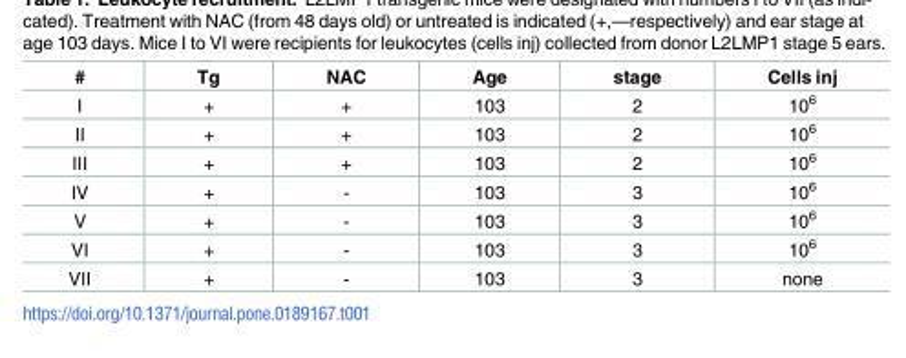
<table><thead><tr><td>#</td><td>Tg</td><td>NAC</td><td>Age</td><td>stage</td><td>Cells inj</td></tr></thead><tbody><tr><td>I</td><td>+</td><td>+</td><td>103</td><td>2</td><td>10<sup>6</sup></td></tr><tr><td>II</td><td>+</td><td>+</td><td>103</td><td>2</td><td>10<sup>6</sup></td></tr><tr><td>III</td><td>+</td><td>+</td><td>103</td><td>2</td><td>10<sup>6</sup></td></tr><tr><td>IV</td><td>+</td><td>-</td><td>103</td><td>3</td><td>10<sup>6</sup></td></tr><tr><td>V</td><td>+</td><td>-</td><td>103</td><td>3</td><td>10<sup>6</sup></td></tr><tr><td>VI</td><td>+</td><td>-</td><td>103</td><td>3</td><td>10<sup>6</sup></td></tr><tr><td>VII</td><td>+</td><td>-</td><td>103</td><td>3</td><td>none</td></tr></tbody></table>